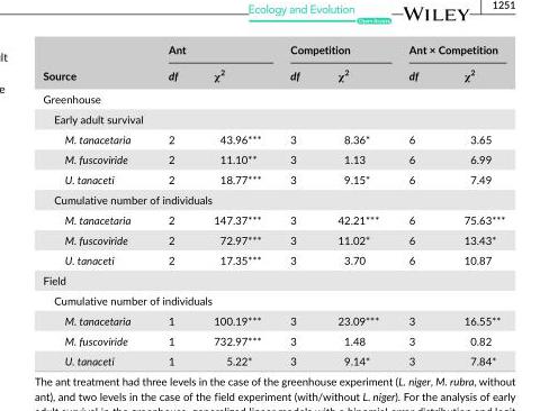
<table><thead><tr><td rowspan="2">Source</td><td colspan="2">Ant</td><td colspan="2">Competition</td><td colspan="2">Ant × Competition</td></tr><tr><td>df</td><td>χ<sup>2</sup></td><td>df</td><td>χ<sup>2</sup></td><td>df</td><td>χ<sup>2</sup></td></tr></thead><tbody><tr><td colspan="7">Greenhouse</td></tr><tr><td colspan="7">Early adult survival</td></tr><tr><td>M. tanacetaria</td><td>2</td><td>43.96***</td><td>3</td><td>8.36*</td><td>6</td><td>3.65</td></tr><tr><td>M. fuscoviride</td><td>2</td><td>11.10**</td><td>3</td><td>1.13</td><td>6</td><td>6.99</td></tr><tr><td>U. tanaceti</td><td>2</td><td>18.77***</td><td>3</td><td>9.15*</td><td>6</td><td>7.49</td></tr><tr><td colspan="7">Cumulative number of individuals</td></tr><tr><td>M. tanacetaria</td><td>2</td><td>147.37***</td><td>3</td><td>42.21***</td><td>6</td><td>75.63***</td></tr><tr><td>M. fuscoviride</td><td>2</td><td>72.97***</td><td>3</td><td>11.02*</td><td>6</td><td>13.43*</td></tr><tr><td>U. tanaceti</td><td>2</td><td>17.35***</td><td>3</td><td>3.70</td><td>6</td><td>10.87</td></tr><tr><td colspan="7">Field</td></tr><tr><td colspan="7">Cumulative number of individuals</td></tr><tr><td>M. tanacetaria</td><td>1</td><td>100.19***</td><td>3</td><td>23.09***</td><td>3</td><td>16.55**</td></tr><tr><td>M. fuscoviride</td><td>1</td><td>732.97***</td><td>3</td><td>1.48</td><td>3</td><td>0.82</td></tr><tr><td>U. tanaceti</td><td>1</td><td>5.22*</td><td>3</td><td>9.14*</td><td>3</td><td>7.84*</td></tr></tbody></table>